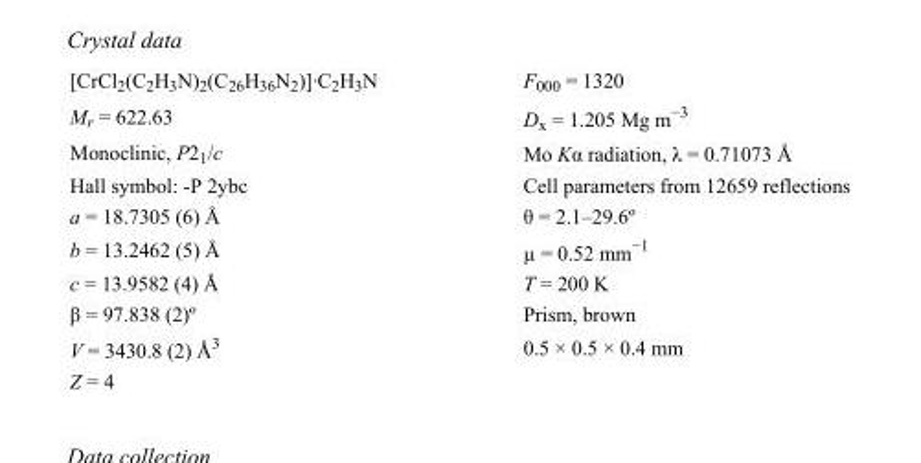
<table><tbody><tr><td>[CrCl<sub>2</sub>(C<sub>2</sub>H<sub>3</sub>N)<sub>2</sub>(C<sub>26</sub>H<sub>36</sub>N<sub>2</sub>)]·C<sub>2</sub>H<sub>3</sub>N</td><td>F000 = 1320</td></tr><tr><td>M<sub>r</sub> = 622.63</td><td>D<sub>x</sub> = 1.205 Mg m<sup>−3</sup></td></tr><tr><td>Monoclinic, P2<sub>1</sub>/c</td><td>Mo Kα radiation, λ = 0.71073 Å</td></tr><tr><td>Hall symbol: -P 2ybc</td><td>Cell parameters from 12659 reflections</td></tr><tr><td>a = 18.7305 (6) Å</td><td>θ = 2.1–29.6º</td></tr><tr><td>b = 13.2462 (5) Å</td><td>µ = 0.52 mm<sup>−1</sup></td></tr><tr><td>c = 13.9582 (4) Å</td><td>T = 200 K</td></tr><tr><td>β = 97.838 (2)º</td><td>Prism, brown</td></tr><tr><td>V = 3430.8 (2) Å<sup>3</sup></td><td>0.5 × 0.5 × 0.4 mm</td></tr><tr><td>Z = 4</td><td></td></tr></tbody></table>